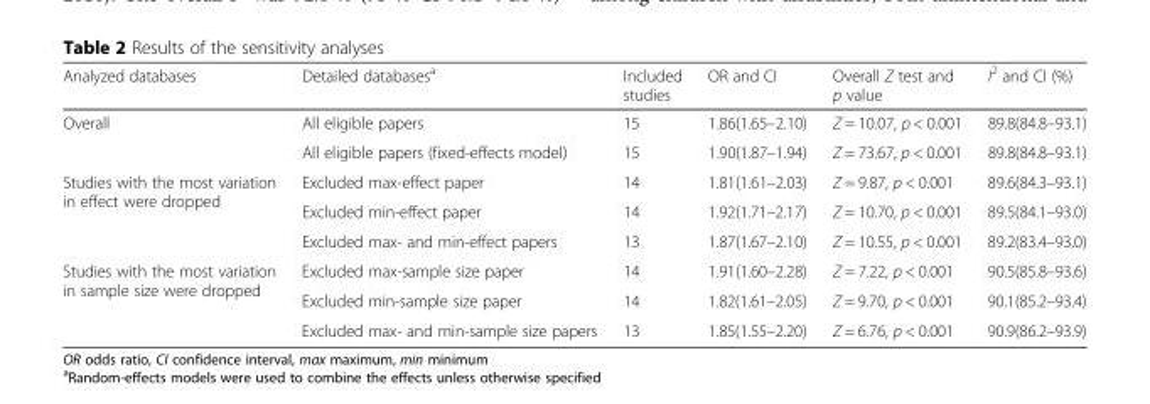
<table><thead><tr><td>Analyzed databases</td><td>Detailed databases<sup>a</sup></td><td>Included studies</td><td>OR and CI</td><td>Overall Z test and p value</td><td>I<sup>2</sup> and CI (%)</td></tr></thead><tbody><tr><td rowspan="2">Overall</td><td>All eligible papers</td><td>15</td><td>1.86(1.65–2.10)</td><td>Z = 10.07, p &lt; 0.001</td><td>89.8(84.8–93.1)</td></tr><tr><td>All eligible papers (fixed-effects model)</td><td>15</td><td>1.90(1.87–1.94)</td><td>Z = 73.67, p &lt; 0.001</td><td>89.8(84.8–93.1)</td></tr><tr><td rowspan="3">Studies with the most variation in effect were dropped</td><td>Excluded max-effect paper</td><td>14</td><td>1.81(1.61–2.03)</td><td>Z = 9.87, p &lt; 0.001</td><td>89.6(84.3–93.1)</td></tr><tr><td>Excluded min-effect paper</td><td>14</td><td>1.92(1.71–2.17)</td><td>Z = 10.70, p &lt; 0.001</td><td>89.5(84.1–93.0)</td></tr><tr><td>Excluded max- and min-effect papers</td><td>13</td><td>1.87(1.67–2.10)</td><td>Z = 10.55, p &lt; 0.001</td><td>89.2(83.4–93.0)</td></tr><tr><td rowspan="3">Studies with the most variation in sample size were dropped</td><td>Excluded max-sample size paper</td><td>14</td><td>1.91(1.60–2.28)</td><td>Z = 7.22, p &lt; 0.001</td><td>90.5(85.8–93.6)</td></tr><tr><td>Excluded min-sample size paper</td><td>14</td><td>1.82(1.61–2.05)</td><td>Z = 9.70, p &lt; 0.001</td><td>90.1(85.2–93.4)</td></tr><tr><td>Excluded max- and min-sample size papers</td><td>13</td><td>1.85(1.55–2.20)</td><td>Z = 6.76, p &lt; 0.001</td><td>90.9(86.2–93.9)</td></tr></tbody></table>